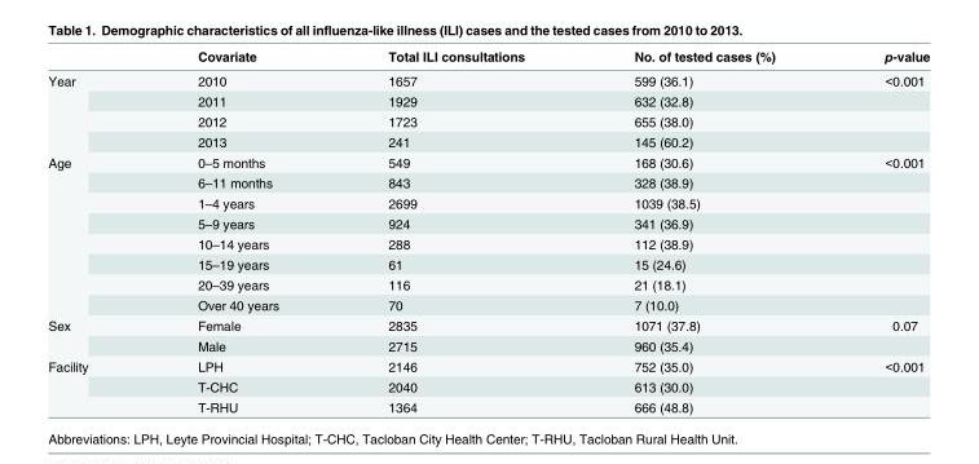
<table><thead><tr><td></td><td>Covariate</td><td>Total ILI consultations</td><td>No. of tested cases (%)</td><td>p-value</td></tr></thead><tbody><tr><td rowspan="4">Year</td><td>2010</td><td>1657</td><td>599 (36.1)</td><td>&lt;0.001</td></tr><tr><td>2011</td><td>1929</td><td>632 (32.8)</td><td></td></tr><tr><td>2012</td><td>1723</td><td>655 (38.0)</td><td></td></tr><tr><td>2013</td><td>241</td><td>145 (60.2)</td><td></td></tr><tr><td rowspan="8">Age</td><td>0–5 months</td><td>549</td><td>168 (30.6)</td><td>&lt;0.001</td></tr><tr><td>6–11 months</td><td>843</td><td>328 (38.9)</td><td></td></tr><tr><td>1–4 years</td><td>2699</td><td>1039 (38.5)</td><td></td></tr><tr><td>5–9 years</td><td>924</td><td>341 (36.9)</td><td></td></tr><tr><td>10–14 years</td><td>288</td><td>112 (38.9)</td><td></td></tr><tr><td>15–19 years</td><td>61</td><td>15 (24.6)</td><td></td></tr><tr><td>20–39 years</td><td>116</td><td>21 (18.1)</td><td></td></tr><tr><td>Over 40 years</td><td>70</td><td>7 (10.0)</td><td></td></tr><tr><td rowspan="2">Sex</td><td>Female</td><td>2835</td><td>1071 (37.8)</td><td>0.07</td></tr><tr><td>Male</td><td>2715</td><td>960 (35.4)</td><td></td></tr><tr><td rowspan="3">Facility</td><td>LPH</td><td>2146</td><td>752 (35.0)</td><td>&lt;0.001</td></tr><tr><td>T-CHC</td><td>2040</td><td>613 (30.0)</td><td></td></tr><tr><td>T-RHU</td><td>1364</td><td>666 (48.8)</td><td></td></tr></tbody></table>